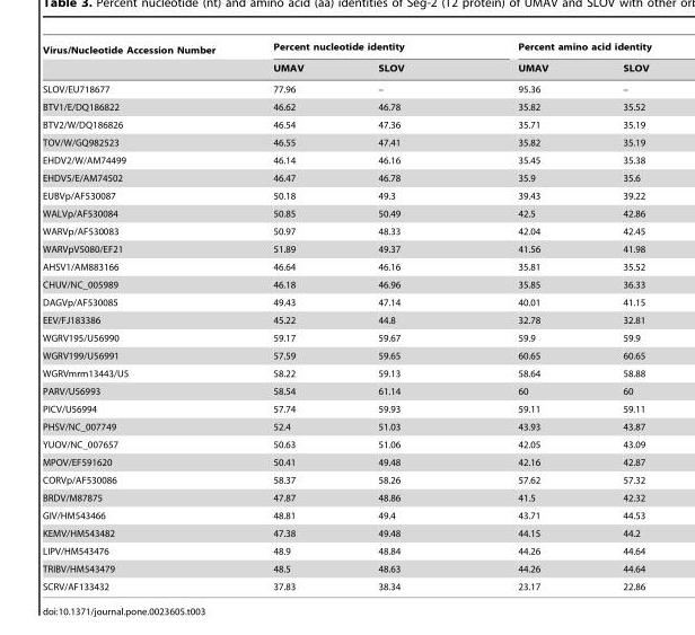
<table><thead><tr><td rowspan="2">Virus/Nucleotide Accession Number</td><td colspan="2">Percent nucleotide identity</td><td colspan="2">Percent amino acid identity</td></tr><tr><td>UMAV</td><td>SLOV</td><td>UMAV</td><td>SLOV</td></tr></thead><tbody><tr><td>SLOV/EU718677</td><td>77.96</td><td>–</td><td>95.36</td><td>–</td></tr><tr><td>BTV1/E/DQ186822</td><td>46.62</td><td>46.78</td><td>35.82</td><td>35.52</td></tr><tr><td>BTV2/W/DQ186826</td><td>46.54</td><td>47.36</td><td>35.71</td><td>35.19</td></tr><tr><td>TOV/W/GQ982523</td><td>46.55</td><td>47.41</td><td>35.82</td><td>35.19</td></tr><tr><td>EHDV2/W/AM74499</td><td>46.14</td><td>46.16</td><td>35.45</td><td>35.38</td></tr><tr><td>EHDV5/E/AM74502</td><td>46.47</td><td>46.78</td><td>35.9</td><td>35.6</td></tr><tr><td>EUBVp/AF530087</td><td>50.18</td><td>49.3</td><td>39.43</td><td>39.22</td></tr><tr><td>WALVp/AF530084</td><td>50.85</td><td>50.49</td><td>42.5</td><td>42.86</td></tr><tr><td>WARVp/AF530083</td><td>50.97</td><td>48.33</td><td>42.04</td><td>42.45</td></tr><tr><td>WARVpV5080/EF21</td><td>51.89</td><td>49.37</td><td>41.56</td><td>41.98</td></tr><tr><td>AHSV1/AM883166</td><td>46.64</td><td>46.16</td><td>35.81</td><td>35.52</td></tr><tr><td>CHUV/NC_005989</td><td>46.18</td><td>46.96</td><td>35.85</td><td>36.33</td></tr><tr><td>DAGVp/AF530085</td><td>49.43</td><td>47.14</td><td>40.01</td><td>41.15</td></tr><tr><td>EEV/FJ183386</td><td>45.22</td><td>44.8</td><td>32.78</td><td>32.81</td></tr><tr><td>WGRV195/U56990</td><td>59.17</td><td>59.67</td><td>59.9</td><td>59.9</td></tr><tr><td>WGRV199/U56991</td><td>57.59</td><td>59.65</td><td>60.65</td><td>60.65</td></tr><tr><td>WGRVmrm13443/U5</td><td>58.22</td><td>59.13</td><td>58.64</td><td>58.88</td></tr><tr><td>PARV/U56993</td><td>58.54</td><td>61.14</td><td>60</td><td>60</td></tr><tr><td>PICV/U56994</td><td>57.74</td><td>59.93</td><td>59.11</td><td>59.11</td></tr><tr><td>PHSV/NC_007749</td><td>52.4</td><td>51.03</td><td>43.93</td><td>43.87</td></tr><tr><td>YUOV/NC_007657</td><td>50.63</td><td>51.06</td><td>42.05</td><td>43.09</td></tr><tr><td>MPOV/EF591620</td><td>50.41</td><td>49.48</td><td>42.16</td><td>42.87</td></tr><tr><td>CORVp/AF530086</td><td>58.37</td><td>58.26</td><td>57.62</td><td>57.32</td></tr><tr><td>BRDV/M87875</td><td>47.87</td><td>48.86</td><td>41.5</td><td>42.32</td></tr><tr><td>GIV/HM543466</td><td>48.81</td><td>49.4</td><td>43.71</td><td>44.53</td></tr><tr><td>KEMV/HM543482</td><td>47.38</td><td>49.48</td><td>44.15</td><td>44.2</td></tr><tr><td>LIPV/HM543476</td><td>48.9</td><td>48.84</td><td>44.26</td><td>44.64</td></tr><tr><td>TRIBV/HM543479</td><td>48.5</td><td>48.63</td><td>44.26</td><td>44.64</td></tr><tr><td>SCRV/AF133432</td><td>37.83</td><td>38.34</td><td>23.17</td><td>22.86</td></tr></tbody></table>